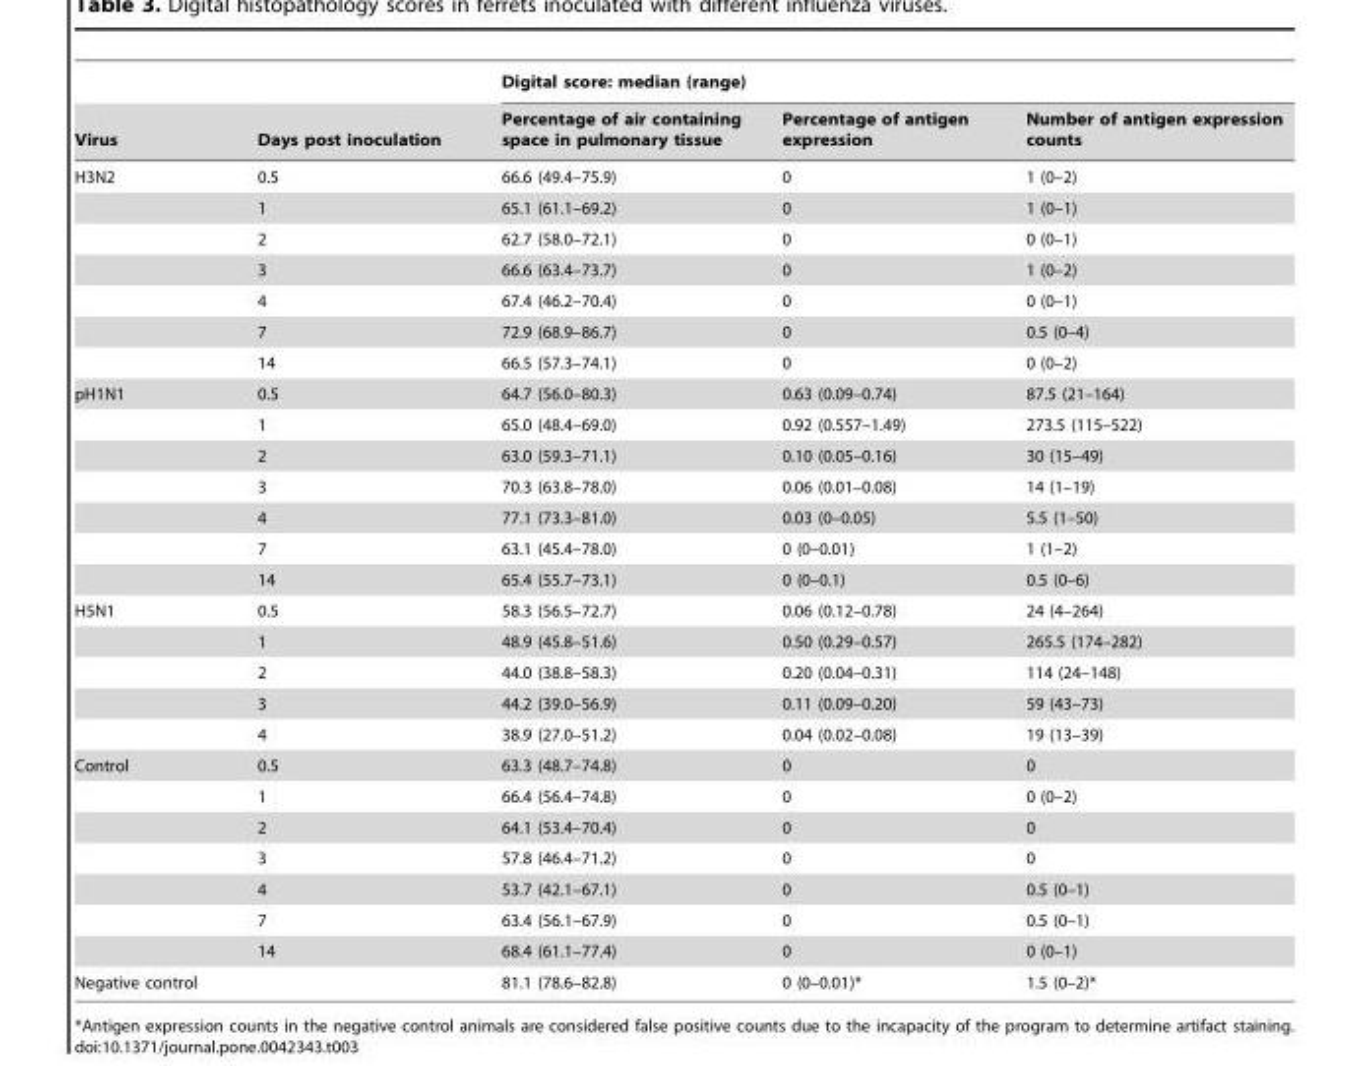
<table><thead><tr><td rowspan="2">Virus</td><td rowspan="2">Days post inoculation</td><td colspan="3">Digital score: median (range)</td></tr><tr><td>Percentage of air containing space in pulmonary tissue</td><td>Percentage of antigen expression</td><td>Number of antigen expression counts</td></tr></thead><tbody><tr><td rowspan="7">H3N2</td><td>0.5</td><td>66.6 (49.4–75.9)</td><td>0</td><td>1 (0–2)</td></tr><tr><td>1</td><td>65.1 (61.1–69.2)</td><td>0</td><td>1 (0–1)</td></tr><tr><td>2</td><td>62.7 (58.0–72.1)</td><td>0</td><td>0 (0–1)</td></tr><tr><td>3</td><td>66.6 (63.4–73.7)</td><td>0</td><td>1 (0–2)</td></tr><tr><td>4</td><td>67.4 (46.2–70.4)</td><td>0</td><td>0 (0–1)</td></tr><tr><td>7</td><td>72.9 (68.9–86.7)</td><td>0</td><td>0.5 (0–4)</td></tr><tr><td>14</td><td>66.5 (57.3–74.1)</td><td>0</td><td>0 (0–2)</td></tr><tr><td rowspan="7">pH1N1</td><td>0.5</td><td>64.7 (56.0–80.3)</td><td>0.63 (0.09–0.74)</td><td>87.5 (21–164)</td></tr><tr><td>1</td><td>65.0 (48.4–69.0)</td><td>0.92 (0.557–1.49)</td><td>273.5 (115–522)</td></tr><tr><td>2</td><td>63.0 (59.3–71.1)</td><td>0.10 (0.05–0.16)</td><td>30 (15–49)</td></tr><tr><td>3</td><td>70.3 (63.8–78.0)</td><td>0.06 (0.01–0.08)</td><td>14 (1–19)</td></tr><tr><td>4</td><td>77.1 (73.3–81.0)</td><td>0.03 (0–0.05)</td><td>5.5 (1–50)</td></tr><tr><td>7</td><td>63.1 (45.4–78.0)</td><td>0 (0–0.01)</td><td>1 (1–2)</td></tr><tr><td>14</td><td>65.4 (55.7–73.1)</td><td>0 (0–0.1)</td><td>0.5 (0–6)</td></tr><tr><td rowspan="5">H5N1</td><td>0.5</td><td>58.3 (56.5–72.7)</td><td>0.06 (0.12–0.78)</td><td>24 (4–264)</td></tr><tr><td>1</td><td>48.9 (45.8–51.6)</td><td>0.50 (0.29–0.57)</td><td>265.5 (174–282)</td></tr><tr><td>2</td><td>44.0 (38.8–58.3)</td><td>0.20 (0.04–0.31)</td><td>114 (24–148)</td></tr><tr><td>3</td><td>44.2 (39.0–56.9)</td><td>0.11 (0.09–0.20)</td><td>59 (43–73)</td></tr><tr><td>4</td><td>38.9 (27.0–51.2)</td><td>0.04 (0.02–0.08)</td><td>19 (13–39)</td></tr><tr><td rowspan="7">Control</td><td>0.5</td><td>63.3 (48.7–74.8)</td><td>0</td><td>0</td></tr><tr><td>1</td><td>66.4 (56.4–74.8)</td><td>0</td><td>0 (0–2)</td></tr><tr><td>2</td><td>64.1 (53.4–70.4)</td><td>0</td><td>0</td></tr><tr><td>3</td><td>57.8 (46.4–71.2)</td><td>0</td><td>0</td></tr><tr><td>4</td><td>53.7 (42.1–67.1)</td><td>0</td><td>0.5 (0–1)</td></tr><tr><td>7</td><td>63.4 (56.1–67.9)</td><td>0</td><td>0.5 (0–1)</td></tr><tr><td>14</td><td>68.4 (61.1–77.4)</td><td>0</td><td>0 (0–1)</td></tr><tr><td>Negative control</td><td></td><td>81.1 (78.6–82.8)</td><td>0 (0–0.01)*</td><td>1.5 (0–2)*</td></tr></tbody></table>